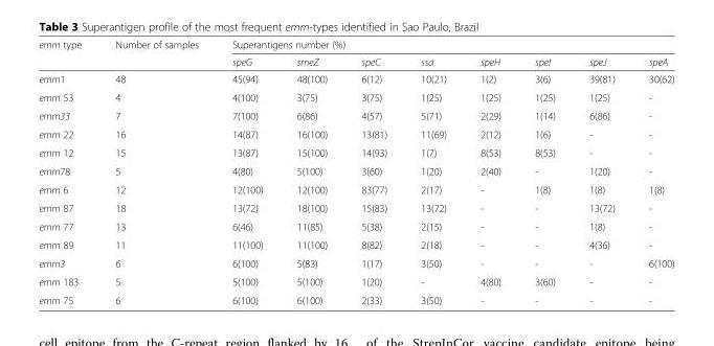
<table><thead><tr><td rowspan="2">emm type</td><td rowspan="2">Number of samples</td><td colspan="8">Superantigens number (%)</td></tr><tr><td>speG</td><td>smeZ</td><td>speC</td><td>ssa</td><td>speH</td><td>speI</td><td>speJ</td><td>speA</td></tr></thead><tbody><tr><td>emm1</td><td>48</td><td>45(94)</td><td>48(100)</td><td>6(12)</td><td>10(21)</td><td>1(2)</td><td>3(6)</td><td>39(81)</td><td>30(62)</td></tr><tr><td>emm 53</td><td>4</td><td>4(100)</td><td>3(75)</td><td>3(75)</td><td>1(25)</td><td>1(25)</td><td>1(25)</td><td>1(25)</td><td>-</td></tr><tr><td>emm33</td><td>7</td><td>7(100)</td><td>6(86)</td><td>4(57)</td><td>5(71)</td><td>2(29)</td><td>1(14)</td><td>6(86)</td><td>-</td></tr><tr><td>emm 22</td><td>16</td><td>14(87)</td><td>16(100)</td><td>13(81)</td><td>11(69)</td><td>2(12)</td><td>1(6)</td><td>-</td><td>-</td></tr><tr><td>emm 12</td><td>15</td><td>13(87)</td><td>15(100)</td><td>14(93)</td><td>1(7)</td><td>8(53)</td><td>8(53)</td><td>-</td><td>-</td></tr><tr><td>emm78</td><td>5</td><td>4(80)</td><td>5(100)</td><td>3(60)</td><td>1(20)</td><td>2(40)</td><td>-</td><td>1(20)</td><td>-</td></tr><tr><td>emm 6</td><td>12</td><td>12(100)</td><td>12(100)</td><td>83(77)</td><td>2(17)</td><td>-</td><td>1(8)</td><td>1(8)</td><td>1(8)</td></tr><tr><td>emm 87</td><td>18</td><td>13(72)</td><td>18(100)</td><td>15(83)</td><td>13(72)</td><td>-</td><td>-</td><td>13(72)</td><td>-</td></tr><tr><td>emm 77</td><td>13</td><td>6(46)</td><td>11(85)</td><td>5(38)</td><td>2(15)</td><td>-</td><td>-</td><td>1(8)</td><td>-</td></tr><tr><td>emm 89</td><td>11</td><td>11(100)</td><td>11(100)</td><td>8(82)</td><td>2(18)</td><td>-</td><td>-</td><td>4(36)</td><td>-</td></tr><tr><td>emm3</td><td>6</td><td>6(100)</td><td>5(83)</td><td>1(17)</td><td>3(50)</td><td>-</td><td>-</td><td>-</td><td>6(100)</td></tr><tr><td>emm 183</td><td>5</td><td>5(100)</td><td>5(100)</td><td>1(20)</td><td>-</td><td>4(80)</td><td>3(60)</td><td>-</td><td>-</td></tr><tr><td>emm 75</td><td>6</td><td>6(100)</td><td>6(100)</td><td>2(33)</td><td>3(50)</td><td>-</td><td>-</td><td>-</td><td>-</td></tr></tbody></table>